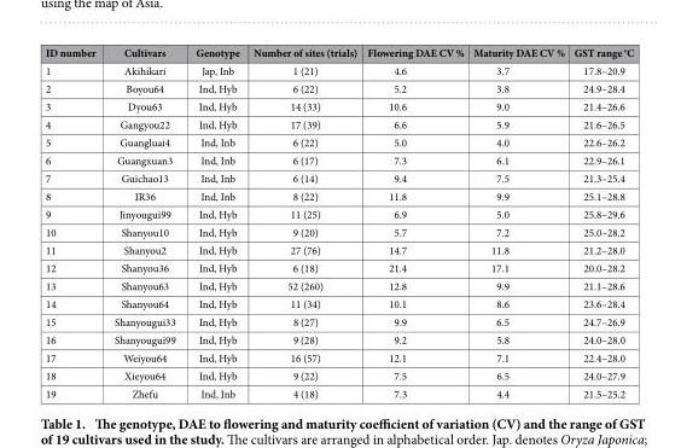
<table><thead><tr><td>ID number</td><td>Cultivars</td><td>Genotype</td><td>Number of sites (trials)</td><td>Flowering DAE CV %</td><td>Maturity DAE CV %</td><td>GST range °C</td></tr></thead><tbody><tr><td>1</td><td>Akihikari</td><td>Jap, Inb</td><td>1 (21)</td><td>4.6</td><td>3.7</td><td>17.8–20.9</td></tr><tr><td>2</td><td>Boyou64</td><td>Ind, Hyb</td><td>6 (22)</td><td>5.2</td><td>3.8</td><td>24.9–28.4</td></tr><tr><td>3</td><td>Dyou63</td><td>Ind, Hyb</td><td>14 (33)</td><td>10.6</td><td>9.0</td><td>21.4–26.6</td></tr><tr><td>4</td><td>Gangyou22</td><td>Ind, Hyb</td><td>17 (39)</td><td>6.6</td><td>5.9</td><td>21.6–26.5</td></tr><tr><td>5</td><td>Guangluai4</td><td>Ind, Inb</td><td>6 (22)</td><td>5.0</td><td>4.0</td><td>22.6–26.2</td></tr><tr><td>6</td><td>Guangxuan3</td><td>Ind, Inb</td><td>6 (17)</td><td>7.3</td><td>6.1</td><td>22.9–26.1</td></tr><tr><td>7</td><td>Guichao13</td><td>Ind, Inb</td><td>6 (14)</td><td>9.4</td><td>7.5</td><td>21.3–25.4</td></tr><tr><td>8</td><td>IR36</td><td>Ind, Inb</td><td>8 (22)</td><td>11.8</td><td>9.9</td><td>25.1–28.8</td></tr><tr><td>9</td><td>Jinyougui99</td><td>Ind, Hyb</td><td>11 (25)</td><td>6.9</td><td>5.0</td><td>25.8–29.6</td></tr><tr><td>10</td><td>Shanyou10</td><td>Ind, Hyb</td><td>9 (20)</td><td>5.7</td><td>7.2</td><td>25.0–28.2</td></tr><tr><td>11</td><td>Shanyou2</td><td>Ind, Hyb</td><td>27 (76)</td><td>14.7</td><td>11.8</td><td>21.2–28.0</td></tr><tr><td>12</td><td>Shanyou36</td><td>Ind, Hyb</td><td>6 (18)</td><td>21.4</td><td>17.1</td><td>20.0–28.2</td></tr><tr><td>13</td><td>Shanyou63</td><td>Ind, Hyb</td><td>52 (260)</td><td>12.8</td><td>9.9</td><td>21.1–28.6</td></tr><tr><td>14</td><td>Shanyou64</td><td>Ind, Hyb</td><td>11 (34)</td><td>10.1</td><td>8.6</td><td>23.6–28.4</td></tr><tr><td>15</td><td>Shanyougui33</td><td>Ind, Hyb</td><td>8 (27)</td><td>9.9</td><td>6.5</td><td>24.7–26.9</td></tr><tr><td>16</td><td>Shanyougui99</td><td>Ind, Hyb</td><td>9 (28)</td><td>9.2</td><td>5.8</td><td>24.0–28.0</td></tr><tr><td>17</td><td>Weiyou64</td><td>Ind, Hyb</td><td>16 (57)</td><td>12.1</td><td>7.1</td><td>22.4–28.0</td></tr><tr><td>18</td><td>Xieyou64</td><td>Ind, Hyb</td><td>9 (22)</td><td>7.5</td><td>6.5</td><td>24.0–27.9</td></tr><tr><td>19</td><td>Zhefu</td><td>Ind, Inb</td><td>4 (18)</td><td>7.3</td><td>4.4</td><td>21.5–25.2</td></tr></tbody></table>